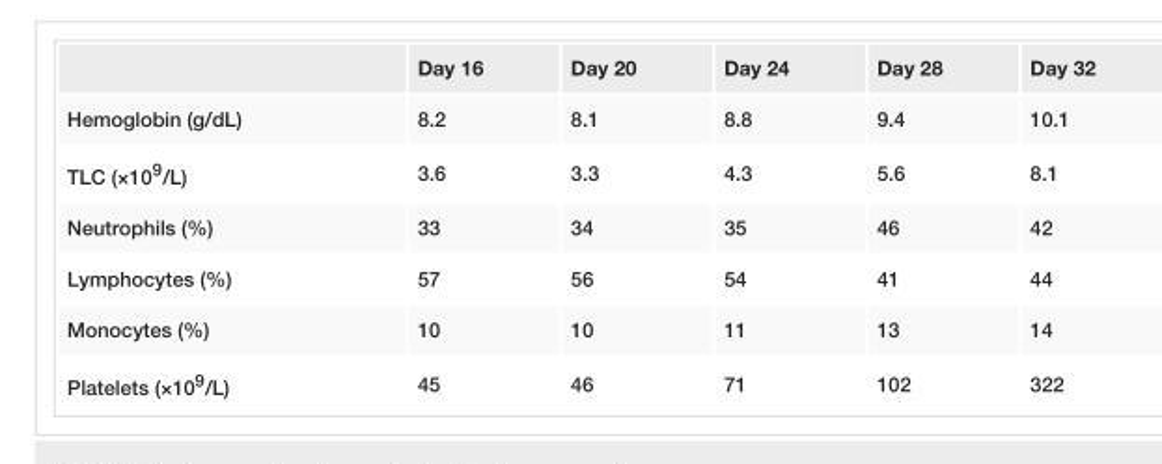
<table><thead><tr><td></td><td>Day 16</td><td>Day 20</td><td>Day 24</td><td>Day 28</td><td>Day 32</td></tr></thead><tbody><tr><td>Hemoglobin (g/dL)</td><td>8.2</td><td>8.1</td><td>8.8</td><td>9.4</td><td>10.1</td></tr><tr><td>TLC (×10<sup>9</sup>/L)</td><td>3.6</td><td>3.3</td><td>4.3</td><td>5.6</td><td>8.1</td></tr><tr><td>Neutrophils (%)</td><td>33</td><td>34</td><td>35</td><td>46</td><td>42</td></tr><tr><td>Lymphocytes (%)</td><td>57</td><td>56</td><td>54</td><td>41</td><td>44</td></tr><tr><td>Monocytes (%)</td><td>10</td><td>10</td><td>11</td><td>13</td><td>14</td></tr><tr><td>Platelets (×10<sup>9</sup>/L)</td><td>45</td><td>46</td><td>71</td><td>102</td><td>322</td></tr></tbody></table>